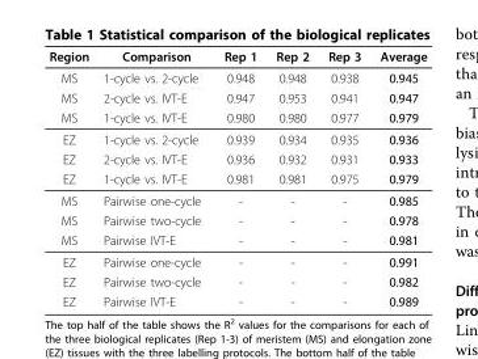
<table><thead><tr><td>Region</td><td>Comparison</td><td>Rep 1</td><td>Rep 2</td><td>Rep 3</td><td>Average</td></tr></thead><tbody><tr><td>MS</td><td>1-cycle vs. 2-cycle</td><td>0.948</td><td>0.948</td><td>0.938</td><td>0.945</td></tr><tr><td>MS</td><td>2-cycle vs. IVT-E</td><td>0.947</td><td>0.953</td><td>0.941</td><td>0.947</td></tr><tr><td>MS</td><td>1-cycle vs. IVT-E</td><td>0.980</td><td>0.980</td><td>0.977</td><td>0.979</td></tr><tr><td>EZ</td><td>1-cycle vs. 2-cycle</td><td>0.939</td><td>0.934</td><td>0.935</td><td>0.936</td></tr><tr><td>EZ</td><td>2-cycle vs. IVT-E</td><td>0.936</td><td>0.932</td><td>0.931</td><td>0.933</td></tr><tr><td>EZ</td><td>1-cycle vs. IVT-E</td><td>0.981</td><td>0.981</td><td>0.975</td><td>0.979</td></tr><tr><td>MS</td><td>Pairwise one-cycle</td><td>-</td><td>-</td><td>-</td><td>0.985</td></tr><tr><td>MS</td><td>Pairwise two-cycle</td><td>-</td><td>-</td><td>-</td><td>0.978</td></tr><tr><td>MS</td><td>Pairwise IVT-E</td><td>-</td><td>-</td><td>-</td><td>0.981</td></tr><tr><td>EZ</td><td>Pairwise one-cycle</td><td>-</td><td>-</td><td>-</td><td>0.991</td></tr><tr><td>EZ</td><td>Pairwise two-cycle</td><td>-</td><td>-</td><td>-</td><td>0.982</td></tr><tr><td>EZ</td><td>Pairwise IVT-E</td><td>-</td><td>-</td><td>-</td><td>0.989</td></tr></tbody></table>